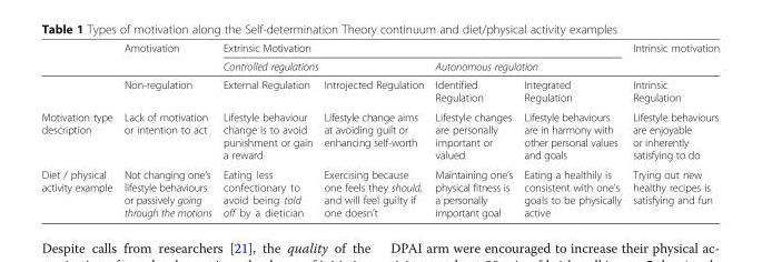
<table><thead><tr><td rowspan="3"></td><td rowspan="3">Amotivation Non-regulation</td><td colspan="4">Extrinsic Motivation</td><td>Intrinsic motivation</td></tr><tr><td colspan="2">Controlled regulations</td><td colspan="3">Autonomous regulation</td></tr><tr><td>External Regulation</td><td>Introjected Regulation</td><td>Identified Regulation</td><td>Integrated Regulation</td><td>Intrinsic Regulation</td></tr></thead><tbody><tr><td>Motivation type description</td><td>Lack of motivation or intention to act</td><td>Lifestyle behaviour change is to avoid punishment or gain a reward</td><td>Lifestyle change aims at avoiding guilt or enhancing self-worth</td><td>Lifestyle changes are personally important or valued</td><td>Lifestyle behaviours are in harmony with other personal values and goals</td><td>Lifestyle behaviours are enjoyable or inherently satisfying to do</td></tr><tr><td>Diet / physical activity example</td><td>Not changing one’s lifestyle behaviours or passively going through the motions</td><td>Eating less confectionary to avoid being told off by a dietician</td><td>Exercising because one feels they should, and will feel guilty if one doesn’t</td><td>Maintaining one’s physical fitness is a personally important goal</td><td>Eating a healthily is consistent with one’s goals to be physically active</td><td>Trying out new healthy recipes is satisfying and fun</td></tr></tbody></table>